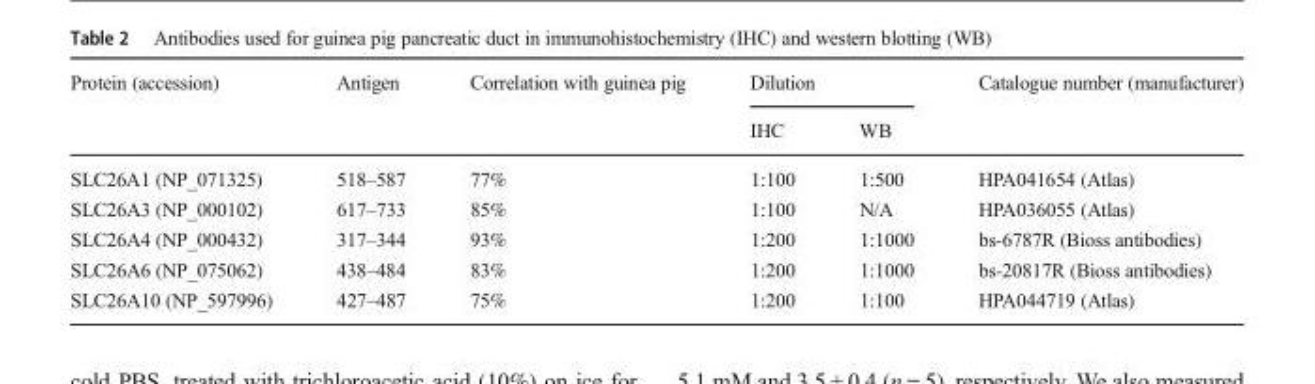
<table><thead><tr><td rowspan="2">Protein (accession)</td><td rowspan="2">Antigen</td><td rowspan="2">Correlation with guinea pig</td><td colspan="2">Dilution</td><td rowspan="2">Catalogue number (manufacturer)</td></tr><tr><td>IHC</td><td>WB</td></tr></thead><tbody><tr><td>SLC26A1 (NP_071325)</td><td>518–587</td><td>77%</td><td>1:100</td><td>1:500</td><td>HPA041654 (Atlas)</td></tr><tr><td>SLC26A3 (NP_000102)</td><td>617–733</td><td>85%</td><td>1:100</td><td>N/A</td><td>HPA036055 (Atlas)</td></tr><tr><td>SLC26A4 (NP_000432)</td><td>317–344</td><td>93%</td><td>1:200</td><td>1:1000</td><td>bs-6787R (Bioss antibodies)</td></tr><tr><td>SLC26A6 (NP_075062)</td><td>438–484</td><td>83%</td><td>1:200</td><td>1:1000</td><td>bs-20817R (Bioss antibodies)</td></tr><tr><td>SLC26A10 (NP_597996)</td><td>427–487</td><td>75%</td><td>1:200</td><td>1:100</td><td>HPA044719 (Atlas)</td></tr></tbody></table>